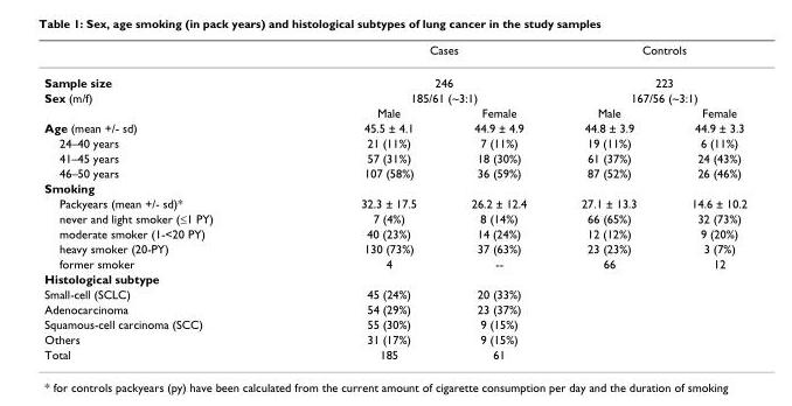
<table><thead><tr><td rowspan="4">Sample size Sex (m/f)</td><td rowspan="3" colspan="2">Cases 246 185/61 (~3:1)</td><td rowspan="3" colspan="2">Controls 223 167/56 (~3:1)</td></tr><tr></tr><tr></tr><tr><td>Male</td><td>Female</td><td>Male</td><td>Female</td></tr></thead><tbody><tr><td>Age (mean +/- sd)</td><td>45.5 ± 4.1</td><td>44.9 ± 4.9</td><td>44.8 ± 3.9</td><td>44.9 ± 3.3</td></tr><tr><td>24–40 years</td><td>21 (11%)</td><td>7 (11%)</td><td>19 (11%)</td><td>6 (11%)</td></tr><tr><td>41–45 years</td><td>57 (31%)</td><td>18 (30%)</td><td>61 (37%)</td><td>24 (43%)</td></tr><tr><td>46–50 years</td><td>107 (58%)</td><td>36 (59%)</td><td>87 (52%)</td><td>26 (46%)</td></tr><tr><td colspan="5">Smoking</td></tr><tr><td>Packyears (mean +/- sd)*</td><td>32.3 ± 17.5</td><td>26.2 ± 12.4</td><td>27.1 ± 13.3</td><td>14.6 ± 10.2</td></tr><tr><td>never and light smoker (≤1 PY)</td><td>7 (4%)</td><td>8 (14%)</td><td>66 (65%)</td><td>32 (73%)</td></tr><tr><td>moderate smoker (1-&lt;20 PY)</td><td>40 (23%)</td><td>14 (24%)</td><td>12 (12%)</td><td>9 (20%)</td></tr><tr><td>heavy smoker (20-PY)</td><td>130 (73%)</td><td>37 (63%)</td><td>23 (23%)</td><td>3 (7%)</td></tr><tr><td>former smoker</td><td>4</td><td>--</td><td>66</td><td>12</td></tr><tr><td colspan="5">Histological subtype</td></tr><tr><td>Small-cell (SCLC)</td><td>45 (24%)</td><td>20 (33%)</td><td></td><td></td></tr><tr><td>Adenocarcinoma</td><td>54 (29%)</td><td>23 (37%)</td><td></td><td></td></tr><tr><td>Squamous-cell carcinoma (SCC)</td><td>55 (30%)</td><td>9 (15%)</td><td></td><td></td></tr><tr><td>Others</td><td>31 (17%)</td><td>9 (15%)</td><td></td><td></td></tr><tr><td>Total</td><td>185</td><td>61</td><td></td><td></td></tr></tbody></table>